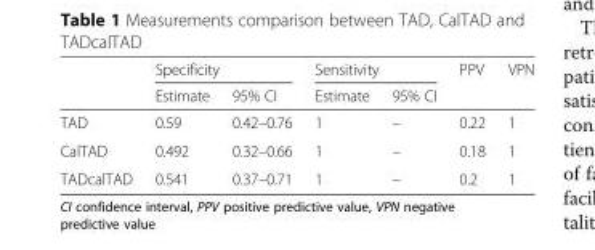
<table><thead><tr><td rowspan="2"></td><td colspan="2">Specificity</td><td colspan="2">Sensitivity</td><td rowspan="2">PPV</td><td rowspan="2">VPN</td></tr><tr><td>Estimate</td><td>95% CI</td><td>Estimate</td><td>95% CI</td></tr></thead><tbody><tr><td>TAD</td><td>0.59</td><td>0.42–0.76</td><td>1</td><td>–</td><td>0.22</td><td>1</td></tr><tr><td>CalTAD</td><td>0.492</td><td>0.32–0.66</td><td>1</td><td>–</td><td>0.18</td><td>1</td></tr><tr><td>TADcalTAD</td><td>0.541</td><td>0.37–0.71</td><td>1</td><td>–</td><td>0.2</td><td>1</td></tr></tbody></table>